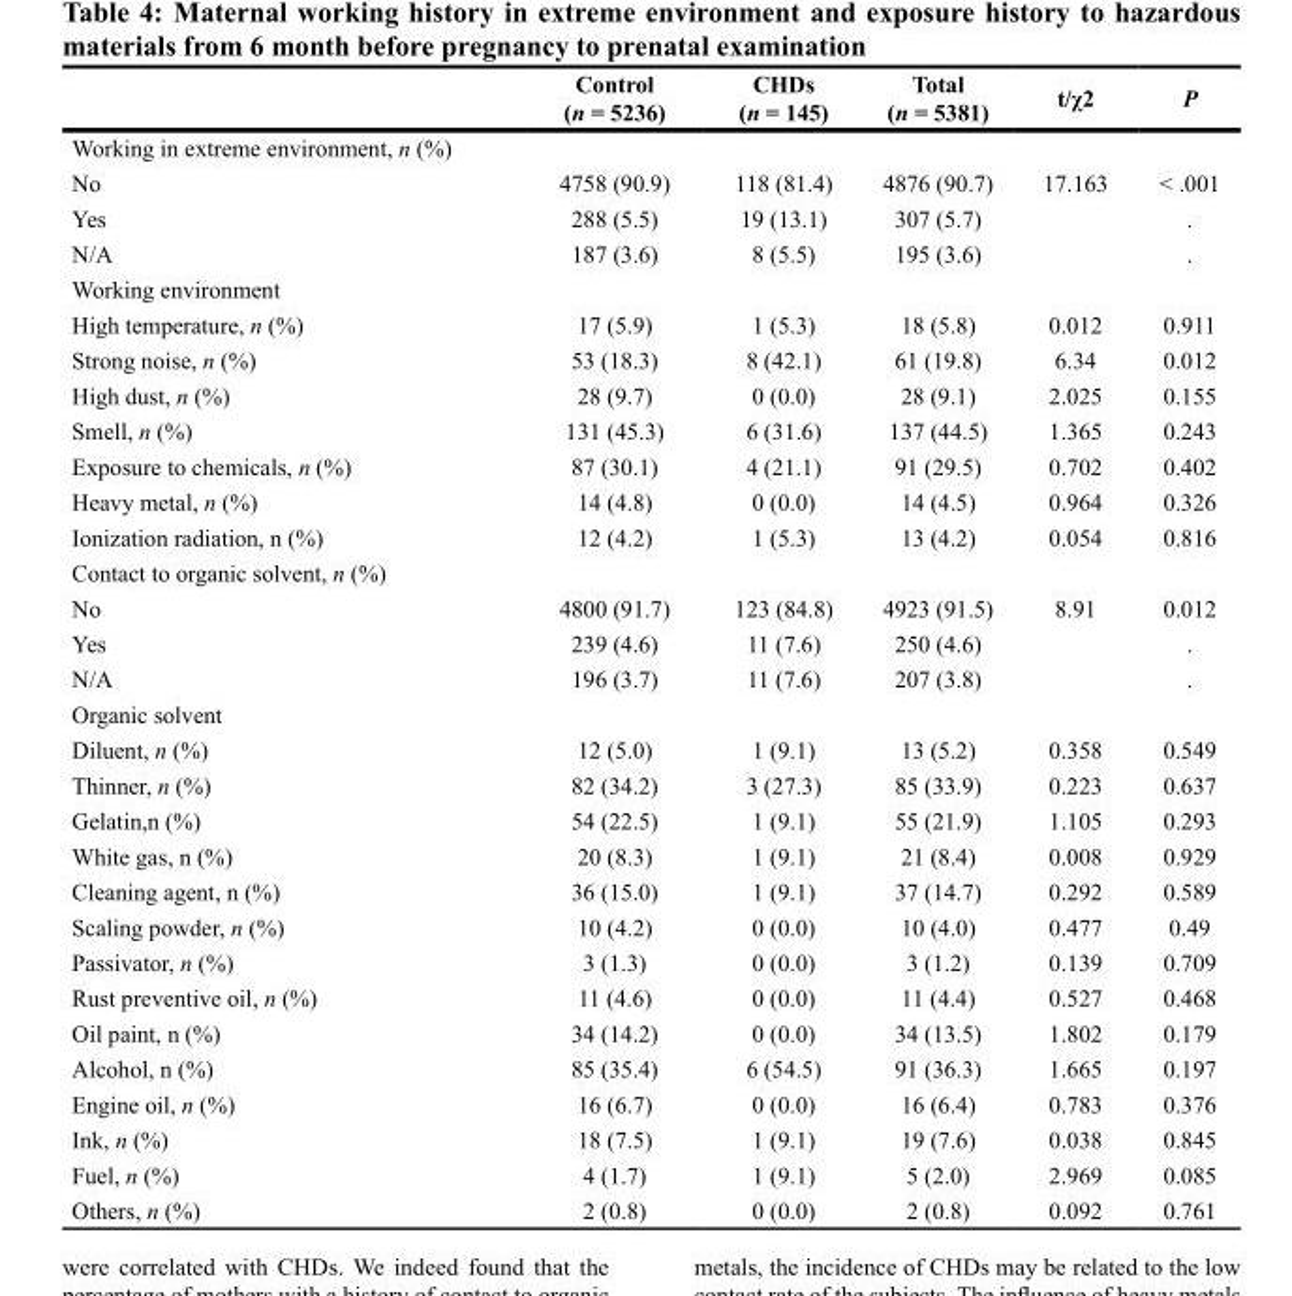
<table><thead><tr><td></td><td>Control (n = 5236)</td><td>CHDs (n = 145)</td><td>Total (n = 5381)</td><td>t/χ2</td><td>P</td></tr></thead><tbody><tr><td colspan="6">Working in extreme environment, n (%)</td></tr><tr><td>No</td><td>4758 (90.9)</td><td>118 (81.4)</td><td>4876 (90.7)</td><td>17.163</td><td>&lt; .001</td></tr><tr><td>Yes</td><td>288 (5.5)</td><td>19 (13.1)</td><td>307 (5.7)</td><td></td><td>.</td></tr><tr><td>N/A</td><td>187 (3.6)</td><td>8 (5.5)</td><td>195 (3.6)</td><td></td><td>.</td></tr><tr><td colspan="6">Working environment</td></tr><tr><td>High temperature, n (%)</td><td>17 (5.9)</td><td>1 (5.3)</td><td>18 (5.8)</td><td>0.012</td><td>0.911</td></tr><tr><td>Strong noise, n (%)</td><td>53 (18.3)</td><td>8 (42.1)</td><td>61 (19.8)</td><td>6.34</td><td>0.012</td></tr><tr><td>High dust, n (%)</td><td>28 (9.7)</td><td>0 (0.0)</td><td>28 (9.1)</td><td>2.025</td><td>0.155</td></tr><tr><td>Smell, n (%)</td><td>131 (45.3)</td><td>6 (31.6)</td><td>137 (44.5)</td><td>1.365</td><td>0.243</td></tr><tr><td>Exposure to chemicals, n (%)</td><td>87 (30.1)</td><td>4 (21.1)</td><td>91 (29.5)</td><td>0.702</td><td>0.402</td></tr><tr><td>Heavy metal, n (%)</td><td>14 (4.8)</td><td>0 (0.0)</td><td>14 (4.5)</td><td>0.964</td><td>0.326</td></tr><tr><td>Ionization radiation, n (%)</td><td>12 (4.2)</td><td>1 (5.3)</td><td>13 (4.2)</td><td>0.054</td><td>0.816</td></tr><tr><td colspan="6">Contact to organic solvent, n (%)</td></tr><tr><td>No</td><td>4800 (91.7)</td><td>123 (84.8)</td><td>4923 (91.5)</td><td>8.91</td><td>0.012</td></tr><tr><td>Yes</td><td>239 (4.6)</td><td>11 (7.6)</td><td>250 (4.6)</td><td></td><td>.</td></tr><tr><td>N/A</td><td>196 (3.7)</td><td>11 (7.6)</td><td>207 (3.8)</td><td></td><td>.</td></tr><tr><td colspan="6">Organic solvent</td></tr><tr><td>Diluent, n (%)</td><td>12 (5.0)</td><td>1 (9.1)</td><td>13 (5.2)</td><td>0.358</td><td>0.549</td></tr><tr><td>Thinner, n (%)</td><td>82 (34.2)</td><td>3 (27.3)</td><td>85 (33.9)</td><td>0.223</td><td>0.637</td></tr><tr><td>Gelatin,n (%)</td><td>54 (22.5)</td><td>1 (9.1)</td><td>55 (21.9)</td><td>1.105</td><td>0.293</td></tr><tr><td>White gas, n (%)</td><td>20 (8.3)</td><td>1 (9.1)</td><td>21 (8.4)</td><td>0.008</td><td>0.929</td></tr><tr><td>Cleaning agent, n (%)</td><td>36 (15.0)</td><td>1 (9.1)</td><td>37 (14.7)</td><td>0.292</td><td>0.589</td></tr><tr><td>Scaling powder, n (%)</td><td>10 (4.2)</td><td>0 (0.0)</td><td>10 (4.0)</td><td>0.477</td><td>0.49</td></tr><tr><td>Passivator, n (%)</td><td>3 (1.3)</td><td>0 (0.0)</td><td>3 (1.2)</td><td>0.139</td><td>0.709</td></tr><tr><td>Rust preventive oil, n (%)</td><td>11 (4.6)</td><td>0 (0.0)</td><td>11 (4.4)</td><td>0.527</td><td>0.468</td></tr><tr><td>Oil paint, n (%)</td><td>34 (14.2)</td><td>0 (0.0)</td><td>34 (13.5)</td><td>1.802</td><td>0.179</td></tr><tr><td>Alcohol, n (%)</td><td>85 (35.4)</td><td>6 (54.5)</td><td>91 (36.3)</td><td>1.665</td><td>0.197</td></tr><tr><td>Engine oil, n (%)</td><td>16 (6.7)</td><td>0 (0.0)</td><td>16 (6.4)</td><td>0.783</td><td>0.376</td></tr><tr><td>Ink, n (%)</td><td>18 (7.5)</td><td>1 (9.1)</td><td>19 (7.6)</td><td>0.038</td><td>0.845</td></tr><tr><td>Fuel, n (%)</td><td>4 (1.7)</td><td>1 (9.1)</td><td>5 (2.0)</td><td>2.969</td><td>0.085</td></tr><tr><td>Others, n (%)</td><td>2 (0.8)</td><td>0 (0.0)</td><td>2 (0.8)</td><td>0.092</td><td>0.761</td></tr></tbody></table>